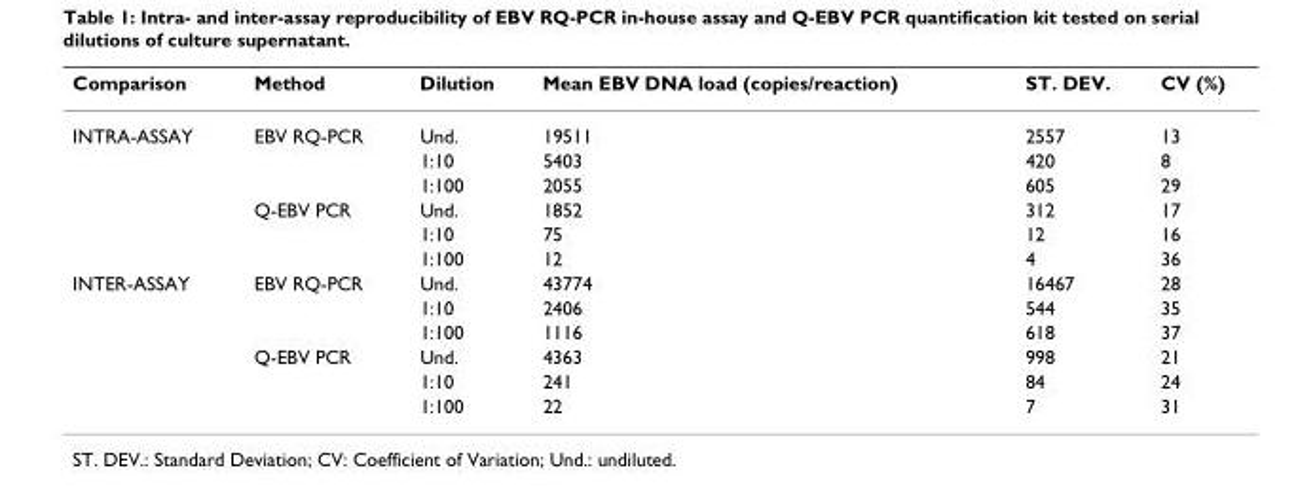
<table><thead><tr><td>Comparison</td><td>Method</td><td>Dilution</td><td>Mean EBV DNA load (copies/reaction)</td><td>ST. DEV.</td><td>CV (%)</td></tr></thead><tbody><tr><td rowspan="6">INTRA-ASSAY</td><td>EBV RQ-PCR</td><td>Und.</td><td>19511</td><td>2557</td><td>13</td></tr><tr><td></td><td>1:10</td><td>5403</td><td>420</td><td>8</td></tr><tr><td></td><td>1:100</td><td>2055</td><td>605</td><td>29</td></tr><tr><td>Q-EBV PCR</td><td>Und.</td><td>1852</td><td>312</td><td>17</td></tr><tr><td></td><td>1:10</td><td>75</td><td>12</td><td>16</td></tr><tr><td></td><td>1:100</td><td>12</td><td>4</td><td>36</td></tr><tr><td rowspan="6">INTER-ASSAY</td><td>EBV RQ-PCR</td><td>Und.</td><td>43774</td><td>16467</td><td>28</td></tr><tr><td></td><td>1:10</td><td>2406</td><td>544</td><td>35</td></tr><tr><td></td><td>1:100</td><td>1116</td><td>618</td><td>37</td></tr><tr><td>Q-EBV PCR</td><td>Und.</td><td>4363</td><td>998</td><td>21</td></tr><tr><td></td><td>1:10</td><td>241</td><td>84</td><td>24</td></tr><tr><td></td><td>1:100</td><td>22</td><td>7</td><td>31</td></tr></tbody></table>